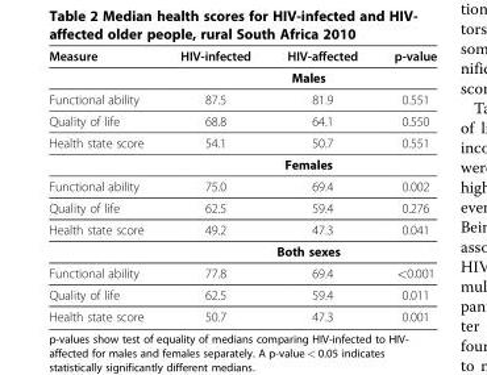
<table><thead><tr><td>Measure</td><td>HIV-infected</td><td>HIV-affected</td><td>p-value</td></tr></thead><tbody><tr><td></td><td colspan="3">Males</td></tr><tr><td>Functional ability</td><td>87.5</td><td>81.9</td><td>0.551</td></tr><tr><td>Quality of life</td><td>68.8</td><td>64.1</td><td>0.550</td></tr><tr><td rowspan="2">Health state score</td><td>54.1</td><td>50.7</td><td>0.551</td></tr><tr><td colspan="3">Females</td></tr><tr><td>Functional ability</td><td>75.0</td><td>69.4</td><td>0.002</td></tr><tr><td>Quality of life</td><td>62.5</td><td>59.4</td><td>0.276</td></tr><tr><td rowspan="2">Health state score</td><td>49.2</td><td>47.3</td><td>0.041</td></tr><tr><td colspan="3">Both sexes</td></tr><tr><td>Functional ability</td><td>77.8</td><td>69.4</td><td>&lt;0.001</td></tr><tr><td>Quality of life</td><td>62.5</td><td>59.4</td><td>0.011</td></tr><tr><td>Health state score</td><td>50.7</td><td>47.3</td><td>0.001</td></tr></tbody></table>